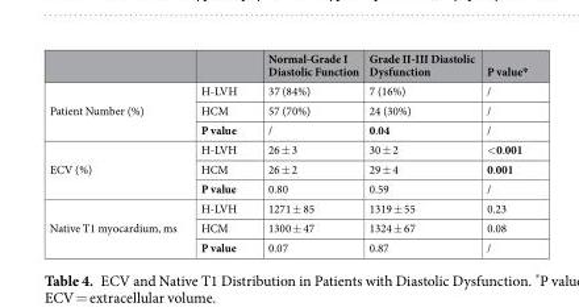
<table><thead><tr><td></td><td></td><td>Normal-Grade I Diastolic Function</td><td>Grade II-III Diastolic Dysfunction</td><td>P value*</td></tr></thead><tbody><tr><td rowspan="3">Patient Number (%)</td><td>H-LVH</td><td>37 (84%)</td><td>7 (16%)</td><td>/</td></tr><tr><td>HCM</td><td>57 (70%)</td><td>24 (30%)</td><td>/</td></tr><tr><td>P value</td><td>/</td><td>0.04</td><td>/</td></tr><tr><td rowspan="3">ECV (%)</td><td>H-LVH</td><td>26 ± 3</td><td>30 ± 2</td><td>&lt;0.001</td></tr><tr><td>HCM</td><td>26 ± 2</td><td>29 ± 4</td><td>0.001</td></tr><tr><td>P value</td><td>0.80</td><td>0.59</td><td>/</td></tr><tr><td rowspan="3">Native T1 myocardium, ms</td><td>H-LVH</td><td>1271 ± 85</td><td>1319 ± 55</td><td>0.23</td></tr><tr><td>HCM</td><td>1300 ± 47</td><td>1324 ± 67</td><td>0.08</td></tr><tr><td>P value</td><td>0.07</td><td>0.87</td><td>/</td></tr></tbody></table>